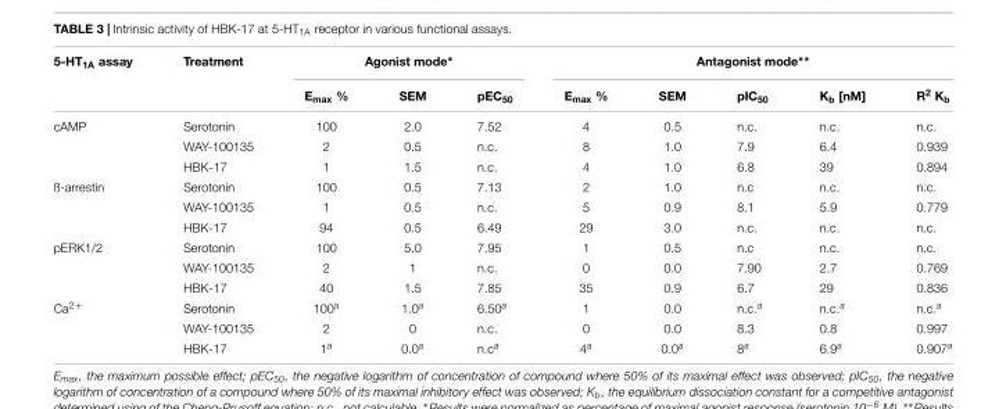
<table><thead><tr><td rowspan="2">5-HT<sub>1A</sub> assay</td><td rowspan="2">Treatment</td><td colspan="3">Agonist mode∗</td><td colspan="5">Antagonist mode∗∗</td></tr><tr><td>E<sub>max</sub> %</td><td>SEM</td><td>pEC<sub>50</sub></td><td>E<sub>max</sub> %</td><td>SEM</td><td>pIC<sub>50</sub></td><td>K<sub>b</sub> [nM]</td><td>R<sup>2</sup> K<sub>b</sub></td></tr></thead><tbody><tr><td rowspan="3">cAMP</td><td>Serotonin</td><td>100</td><td>2.0</td><td>7.52</td><td>4</td><td>0.5</td><td>n.c.</td><td>n.c.</td><td>n.c.</td></tr><tr><td>WAY-100135</td><td>2</td><td>0.5</td><td>n.c.</td><td>8</td><td>1.0</td><td>7.9</td><td>6.4</td><td>0.939</td></tr><tr><td>HBK-17</td><td>1</td><td>1.5</td><td>n.c.</td><td>4</td><td>1.0</td><td>6.8</td><td>39</td><td>0.894</td></tr><tr><td rowspan="3">ß-arrestin</td><td>Serotonin</td><td>100</td><td>0.5</td><td>7.13</td><td>2</td><td>1.0</td><td>n.c</td><td>n.c.</td><td>n.c.</td></tr><tr><td>WAY-100135</td><td>1</td><td>0.5</td><td>n.c.</td><td>5</td><td>0.9</td><td>8.1</td><td>5.9</td><td>0.779</td></tr><tr><td>HBK-17</td><td>94</td><td>0.5</td><td>6.49</td><td>29</td><td>3.0</td><td>n.c.</td><td>n.c.</td><td>n.c.</td></tr><tr><td rowspan="3">pERK1/2</td><td>Serotonin</td><td>100</td><td>5.0</td><td>7.95</td><td>1</td><td>0.5</td><td>n.c</td><td>n.c.</td><td>n.c.</td></tr><tr><td>WAY-100135</td><td>2</td><td>1</td><td>n.c.</td><td>0</td><td>0.0</td><td>7.90</td><td>2.7</td><td>0.769</td></tr><tr><td>HBK-17</td><td>40</td><td>1.5</td><td>7.85</td><td>35</td><td>0.9</td><td>6.7</td><td>29</td><td>0.836</td></tr><tr><td rowspan="3">Ca<sup>2+</sup></td><td>Serotonin</td><td>100<sup>a</sup></td><td>1.0<sup>a</sup></td><td>6.50<sup>a</sup></td><td>1</td><td>0.0</td><td>n.c.<sup>a</sup></td><td>n.c.<sup>a</sup></td><td>n.c.<sup>a</sup></td></tr><tr><td>WAY-100135</td><td>2</td><td>0</td><td>n.c.</td><td>0</td><td>0.0</td><td>8.3</td><td>0.8</td><td>0.997</td></tr><tr><td>HBK-17</td><td>1<sup>a</sup></td><td>0.0<sup>a</sup></td><td>n.c<sup>a</sup></td><td>4<sup>a</sup></td><td>0.0<sup>a</sup></td><td>8<sup>a</sup></td><td>6.9<sup>a</sup></td><td>0.907<sup>a</sup></td></tr></tbody></table>